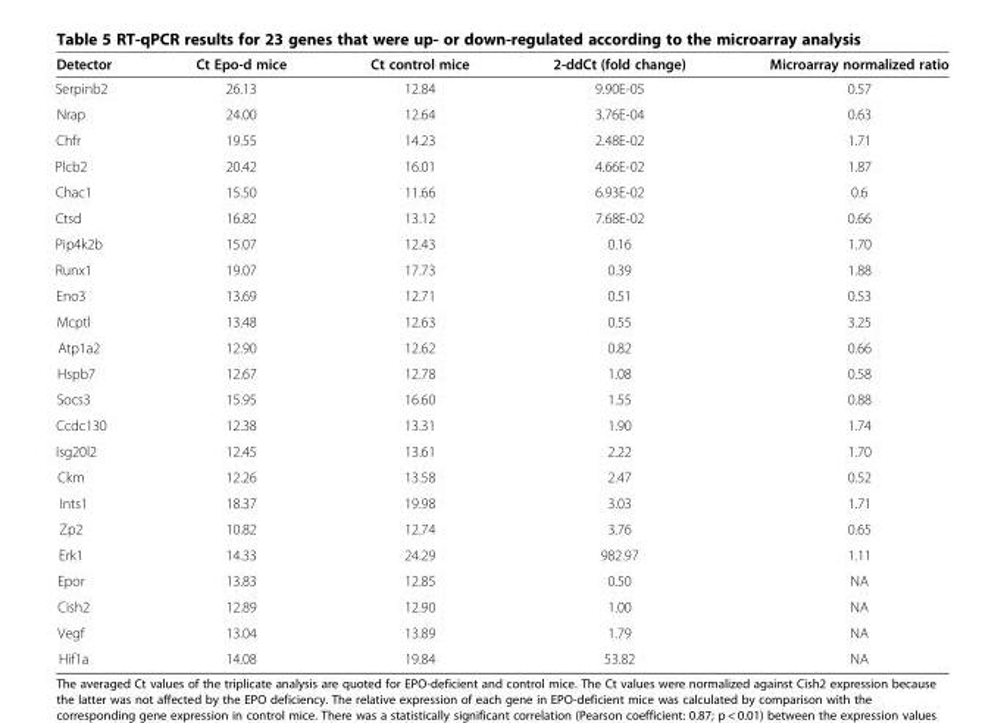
<table><thead><tr><td>Detector</td><td>Ct Epo-d mice</td><td>Ct control mice</td><td>2-ddCt (fold change)</td><td>Microarray normalized ratio</td></tr></thead><tbody><tr><td>Serpinb2</td><td>26.13</td><td>12.84</td><td>9.90E-05</td><td>0.57</td></tr><tr><td>Nrap</td><td>24.00</td><td>12.64</td><td>3.76E-04</td><td>0.63</td></tr><tr><td>Chfr</td><td>19.55</td><td>14.23</td><td>2.48E-02</td><td>1.71</td></tr><tr><td>Plcb2</td><td>20.42</td><td>16.01</td><td>4.66E-02</td><td>1.87</td></tr><tr><td>Chac1</td><td>15.50</td><td>11.66</td><td>6.93E-02</td><td>0.6</td></tr><tr><td>Ctsd</td><td>16.82</td><td>13.12</td><td>7.68E-02</td><td>0.66</td></tr><tr><td>Pip4k2b</td><td>15.07</td><td>12.43</td><td>0.16</td><td>1.70</td></tr><tr><td>Runx1</td><td>19.07</td><td>17.73</td><td>0.39</td><td>1.88</td></tr><tr><td>Eno3</td><td>13.69</td><td>12.71</td><td>0.51</td><td>0.53</td></tr><tr><td>Mcptl</td><td>13.48</td><td>12.63</td><td>0.55</td><td>3.25</td></tr><tr><td>Atp1a2</td><td>12.90</td><td>12.62</td><td>0.82</td><td>0.66</td></tr><tr><td>Hspb7</td><td>12.67</td><td>12.78</td><td>1.08</td><td>0.58</td></tr><tr><td>Socs3</td><td>15.95</td><td>16.60</td><td>1.55</td><td>0.88</td></tr><tr><td>Ccdc130</td><td>12.38</td><td>13.31</td><td>1.90</td><td>1.74</td></tr><tr><td>Isg20l2</td><td>12.45</td><td>13.61</td><td>2.22</td><td>1.70</td></tr><tr><td>Ckm</td><td>12.26</td><td>13.58</td><td>2.47</td><td>0.52</td></tr><tr><td>Ints1</td><td>18.37</td><td>19.98</td><td>3.03</td><td>1.71</td></tr><tr><td>Zp2</td><td>10.82</td><td>12.74</td><td>3.76</td><td>0.65</td></tr><tr><td>Erk1</td><td>14.33</td><td>24.29</td><td>982.97</td><td>1.11</td></tr><tr><td>Epor</td><td>13.83</td><td>12.85</td><td>0.50</td><td>NA</td></tr><tr><td>Cish2</td><td>12.89</td><td>12.90</td><td>1.00</td><td>NA</td></tr><tr><td>Vegf</td><td>13.04</td><td>13.89</td><td>1.79</td><td>NA</td></tr><tr><td>Hif1a</td><td>14.08</td><td>19.84</td><td>53.82</td><td>NA</td></tr></tbody></table>